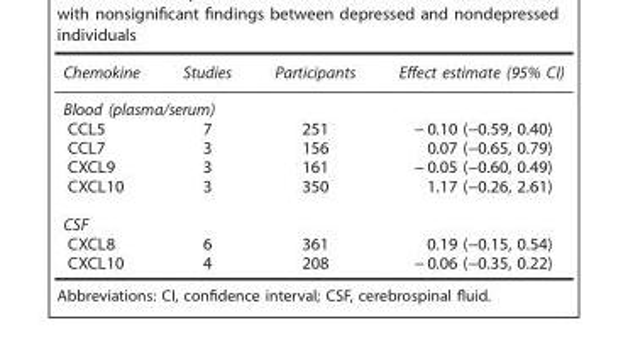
<table><thead><tr><td>Chemokine</td><td>Studies</td><td>Participants</td><td>Effect estimate (95% CI)</td></tr></thead><tbody><tr><td colspan="4">Blood (plasma/serum)</td></tr><tr><td>CCL5</td><td>7</td><td>251</td><td>− 0.10 (−0.59, 0.40)</td></tr><tr><td>CCL7</td><td>3</td><td>156</td><td>0.07 (−0.65, 0.79)</td></tr><tr><td>CXCL9</td><td>3</td><td>161</td><td>− 0.05 (−0.60, 0.49)</td></tr><tr><td>CXCL10</td><td>3</td><td>350</td><td>1.17 (−0.26, 2.61)</td></tr><tr><td colspan="4">CSF</td></tr><tr><td>CXCL8</td><td>6</td><td>361</td><td>0.19 (−0.15, 0.54)</td></tr><tr><td>CXCL10</td><td>4</td><td>208</td><td>− 0.06 (−0.35, 0.22)</td></tr></tbody></table>